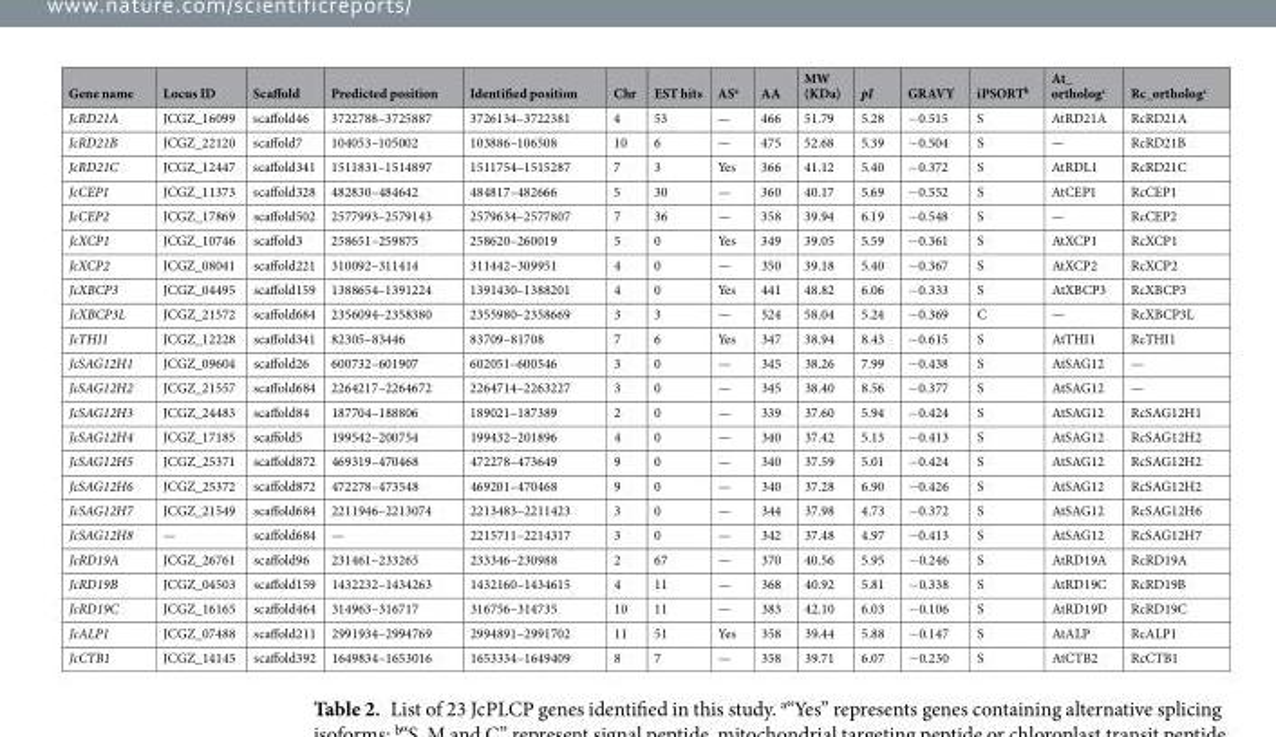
<table><thead><tr><td>Gene name</td><td>Locus ID</td><td>Scaffold</td><td>Predicted position</td><td>Identified position</td><td>Chr</td><td>EST hits</td><td>AS<sup>a</sup></td><td>AA</td><td>MW (KDa)</td><td>pI</td><td>GRAVY</td><td>iPSORT<sup>b</sup></td><td>At_ ortholog<sup>c</sup></td><td>Rc_ortholog<sup>c</sup></td></tr></thead><tbody><tr><td>JcRD21A</td><td>JCGZ_16099</td><td>scaffold46</td><td>3722788–3725887</td><td>3726134–3722381</td><td>4</td><td>53</td><td>—</td><td>466</td><td>51.79</td><td>5.28</td><td>−0.515</td><td>S</td><td>AtRD21A</td><td>RcRD21A</td></tr><tr><td>JcRD21B</td><td>JCGZ_22120</td><td>scaffold7</td><td>104053–105002</td><td>103886–106508</td><td>10</td><td>6</td><td>—</td><td>475</td><td>52.68</td><td>5.39</td><td>−0.504</td><td>S</td><td>—</td><td>RcRD21B</td></tr><tr><td>JcRD21C</td><td>JCGZ_12447</td><td>scaffold341</td><td>1511831–1514897</td><td>1511754–1515287</td><td>7</td><td>3</td><td>Yes</td><td>366</td><td>41.12</td><td>5.40</td><td>−0.372</td><td>S</td><td>AtRDL1</td><td>RcRD21C</td></tr><tr><td>JcCEP1</td><td>JCGZ_11373</td><td>scaffold328</td><td>482830–484642</td><td>484817–482666</td><td>5</td><td>30</td><td>—</td><td>360</td><td>40.17</td><td>5.69</td><td>−0.552</td><td>S</td><td>AtCEP1</td><td>RcCEP1</td></tr><tr><td>JcCEP2</td><td>JCGZ_17869</td><td>scaffold502</td><td>2577993–2579143</td><td>2579634–2577807</td><td>7</td><td>36</td><td>—</td><td>358</td><td>39.94</td><td>6.19</td><td>−0.548</td><td>S</td><td>—</td><td>RcCEP2</td></tr><tr><td>JcXCP1</td><td>JCGZ_10746</td><td>scaffold3</td><td>258651–259875</td><td>258620–260019</td><td>5</td><td>0</td><td>Yes</td><td>349</td><td>39.05</td><td>5.59</td><td>−0.361</td><td>S</td><td>AtXCP1</td><td>RcXCP1</td></tr><tr><td>JcXCP2</td><td>JCGZ_08041</td><td>scaffold221</td><td>310092–311414</td><td>311442–309951</td><td>4</td><td>0</td><td>—</td><td>350</td><td>39.18</td><td>5.40</td><td>−0.367</td><td>S</td><td>AtXCP2</td><td>RcXCP2</td></tr><tr><td>JcXBCP3</td><td>JCGZ_04495</td><td>scaffold159</td><td>1388654–1391224</td><td>1391430–1388201</td><td>4</td><td>0</td><td>Yes</td><td>441</td><td>48.82</td><td>6.06</td><td>−0.333</td><td>S</td><td>AtXBCP3</td><td>RcXBCP3</td></tr><tr><td>JcXBCP3L</td><td>JCGZ_21572</td><td>scaffold684</td><td>2356094–2358380</td><td>2355980–2358669</td><td>3</td><td>3</td><td>—</td><td>524</td><td>58.04</td><td>5.24</td><td>−0.369</td><td>C</td><td>—</td><td>RcXBCP3L</td></tr><tr><td>JcTHI1</td><td>JCGZ_12228</td><td>scaffold341</td><td>82305–83446</td><td>83709–81708</td><td>7</td><td>6</td><td>Yes</td><td>347</td><td>38.94</td><td>8.43</td><td>−0.615</td><td>S</td><td>AtTHI1</td><td>RcTHI1</td></tr><tr><td>JcSAG12H1</td><td>JCGZ_09604</td><td>scaffold26</td><td>600732–601907</td><td>602051–600546</td><td>3</td><td>0</td><td>—</td><td>345</td><td>38.26</td><td>7.99</td><td>−0.438</td><td>S</td><td>AtSAG12</td><td>—</td></tr><tr><td>JcSAG12H2</td><td>JCGZ_21557</td><td>scaffold684</td><td>2264217–2264672</td><td>2264714–2263227</td><td>3</td><td>0</td><td>—</td><td>345</td><td>38.40</td><td>8.56</td><td>−0.377</td><td>S</td><td>AtSAG12</td><td>—</td></tr><tr><td>JcSAG12H3</td><td>JCGZ_24483</td><td>scaffold84</td><td>187704–188806</td><td>189021–187389</td><td>2</td><td>0</td><td>—</td><td>339</td><td>37.60</td><td>5.94</td><td>−0.424</td><td>S</td><td>AtSAG12</td><td>RcSAG12H1</td></tr><tr><td>JcSAG12H4</td><td>JCGZ_17185</td><td>scaffold5</td><td>199542–200754</td><td>199432–201896</td><td>4</td><td>0</td><td>—</td><td>340</td><td>37.42</td><td>5.13</td><td>−0.413</td><td>S</td><td>AtSAG12</td><td>RcSAG12H2</td></tr><tr><td>JcSAG12H5</td><td>JCGZ_25371</td><td>scaffold872</td><td>469319–470468</td><td>472278–473649</td><td>9</td><td>0</td><td>—</td><td>340</td><td>37.59</td><td>5.01</td><td>−0.424</td><td>S</td><td>AtSAG12</td><td>RcSAG12H2</td></tr><tr><td>JcSAG12H6</td><td>JCGZ_25372</td><td>scaffold872</td><td>472278–473548</td><td>469201–470468</td><td>9</td><td>0</td><td>—</td><td>340</td><td>37.28</td><td>6.90</td><td>−0.426</td><td>S</td><td>AtSAG12</td><td>RcSAG12H2</td></tr><tr><td>JcSAG12H7</td><td>JCGZ_21549</td><td>scaffold684</td><td>2211946–2213074</td><td>2213483–2211423</td><td>3</td><td>0</td><td>—</td><td>344</td><td>37.98</td><td>4.73</td><td>−0.372</td><td>S</td><td>AtSAG12</td><td>RcSAG12H6</td></tr><tr><td>JcSAG12H8</td><td>—</td><td>scaffold684</td><td>—</td><td>2215711–2214317</td><td>3</td><td>0</td><td>—</td><td>342</td><td>37.48</td><td>4.97</td><td>−0.413</td><td>S</td><td>AtSAG12</td><td>RcSAG12H7</td></tr><tr><td>JcRD19A</td><td>JCGZ_26761</td><td>scaffold96</td><td>231461–233265</td><td>233346–230988</td><td>2</td><td>67</td><td>—</td><td>370</td><td>40.56</td><td>5.95</td><td>−0.246</td><td>S</td><td>AtRD19A</td><td>RcRD19A</td></tr><tr><td>JcRD19B</td><td>JCGZ_04503</td><td>scaffold159</td><td>1432232–1434263</td><td>1432160–1434615</td><td>4</td><td>11</td><td>—</td><td>368</td><td>40.92</td><td>5.81</td><td>−0.338</td><td>S</td><td>AtRD19C</td><td>RcRD19B</td></tr><tr><td>JcRD19C</td><td>JCGZ_16165</td><td>scaffold464</td><td>314963–316717</td><td>316756–314735</td><td>10</td><td>11</td><td>—</td><td>383</td><td>42.10</td><td>6.03</td><td>−0.106</td><td>S</td><td>AtRD19D</td><td>RcRD19C</td></tr><tr><td>JcALP1</td><td>JCGZ_07488</td><td>scaffold211</td><td>2991934–2994769</td><td>2994891–2991702</td><td>11</td><td>51</td><td>Yes</td><td>358</td><td>39.44</td><td>5.88</td><td>−0.147</td><td>S</td><td>AtALP</td><td>RcALP1</td></tr><tr><td>JcCTB1</td><td>JCGZ_14145</td><td>scaffold392</td><td>1649834–1653016</td><td>1653334–1649409</td><td>8</td><td>7</td><td>—</td><td>358</td><td>39.71</td><td>6.07</td><td>−0.230</td><td>S</td><td>AtCTB2</td><td>RcCTB1</td></tr></tbody></table>